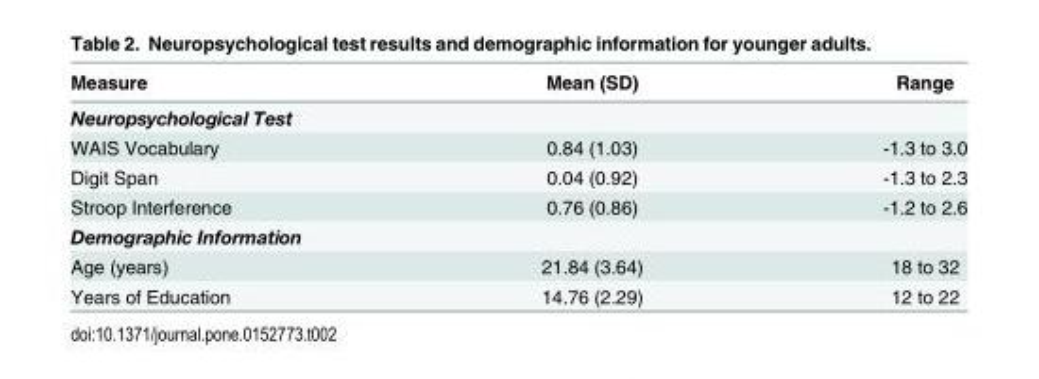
<table><thead><tr><td>Measure</td><td>Mean (SD)</td><td>Range</td></tr></thead><tbody><tr><td colspan="3">Neuropsychological Test</td></tr><tr><td>WAIS Vocabulary</td><td>0.84 (1.03)</td><td>-1.3 to 3.0</td></tr><tr><td>Digit Span</td><td>0.04 (0.92)</td><td>-1.3 to 2.3</td></tr><tr><td>Stroop Interference</td><td>0.76 (0.86)</td><td>-1.2 to 2.6</td></tr><tr><td colspan="3">Demographic Information</td></tr><tr><td>Age (years)</td><td>21.84 (3.64)</td><td>18 to 32</td></tr><tr><td>Years of Education</td><td>14.76 (2.29)</td><td>12 to 22</td></tr></tbody></table>